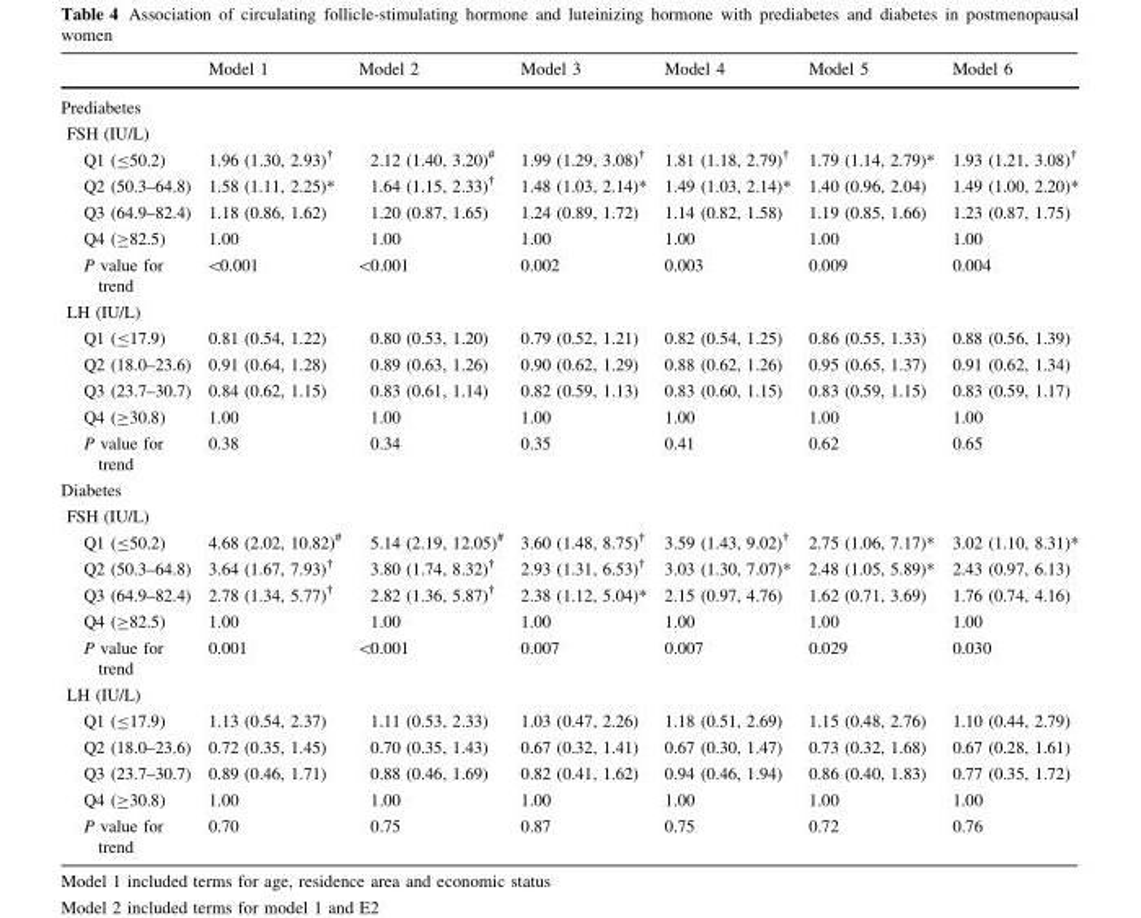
<table><thead><tr><td></td><td>Model 1</td><td>Model 2</td><td>Model 3</td><td>Model 4</td><td>Model 5</td><td>Model 6</td></tr></thead><tbody><tr><td colspan="7">Prediabetes</td></tr><tr><td colspan="7">FSH (IU/L)</td></tr><tr><td>Q1 (≤50.2)</td><td>1.96 (1.30, 2.93)<sup>†</sup></td><td>2.12 (1.40, 3.20)<sup>#</sup></td><td>1.99 (1.29, 3.08)<sup>†</sup></td><td>1.81 (1.18, 2.79)<sup>†</sup></td><td>1.79 (1.14, 2.79)*</td><td>1.93 (1.21, 3.08)<sup>†</sup></td></tr><tr><td>Q2 (50.3–64.8)</td><td>1.58 (1.11, 2.25)*</td><td>1.64 (1.15, 2.33)<sup>†</sup></td><td>1.48 (1.03, 2.14)*</td><td>1.49 (1.03, 2.14)*</td><td>1.40 (0.96, 2.04)</td><td>1.49 (1.00, 2.20)*</td></tr><tr><td>Q3 (64.9–82.4)</td><td>1.18 (0.86, 1.62)</td><td>1.20 (0.87, 1.65)</td><td>1.24 (0.89, 1.72)</td><td>1.14 (0.82, 1.58)</td><td>1.19 (0.85, 1.66)</td><td>1.23 (0.87, 1.75)</td></tr><tr><td>Q4 (≥82.5)</td><td>1.00</td><td>1.00</td><td>1.00</td><td>1.00</td><td>1.00</td><td>1.00</td></tr><tr><td>P value for trend</td><td>&lt;0.001</td><td>&lt;0.001</td><td>0.002</td><td>0.003</td><td>0.009</td><td>0.004</td></tr><tr><td colspan="7">LH (IU/L)</td></tr><tr><td>Q1 (≤17.9)</td><td>0.81 (0.54, 1.22)</td><td>0.80 (0.53, 1.20)</td><td>0.79 (0.52, 1.21)</td><td>0.82 (0.54, 1.25)</td><td>0.86 (0.55, 1.33)</td><td>0.88 (0.56, 1.39)</td></tr><tr><td>Q2 (18.0–23.6)</td><td>0.91 (0.64, 1.28)</td><td>0.89 (0.63, 1.26)</td><td>0.90 (0.62, 1.29)</td><td>0.88 (0.62, 1.26)</td><td>0.95 (0.65, 1.37)</td><td>0.91 (0.62, 1.34)</td></tr><tr><td>Q3 (23.7–30.7)</td><td>0.84 (0.62, 1.15)</td><td>0.83 (0.61, 1.14)</td><td>0.82 (0.59, 1.13)</td><td>0.83 (0.60, 1.15)</td><td>0.83 (0.59, 1.15)</td><td>0.83 (0.59, 1.17)</td></tr><tr><td>Q4 (≥30.8)</td><td>1.00</td><td>1.00</td><td>1.00</td><td>1.00</td><td>1.00</td><td>1.00</td></tr><tr><td>P value for trend</td><td>0.38</td><td>0.34</td><td>0.35</td><td>0.41</td><td>0.62</td><td>0.65</td></tr><tr><td colspan="7">Diabetes</td></tr><tr><td colspan="7">FSH (IU/L)</td></tr><tr><td>Q1 (≤50.2)</td><td>4.68 (2.02, 10.82)<sup>#</sup></td><td>5.14 (2.19, 12.05)<sup>#</sup></td><td>3.60 (1.48, 8.75)<sup>†</sup></td><td>3.59 (1.43, 9.02)<sup>†</sup></td><td>2.75 (1.06, 7.17)*</td><td>3.02 (1.10, 8.31)*</td></tr><tr><td>Q2 (50.3–64.8)</td><td>3.64 (1.67, 7.93)<sup>†</sup></td><td>3.80 (1.74, 8.32)<sup>†</sup></td><td>2.93 (1.31, 6.53)<sup>†</sup></td><td>3.03 (1.30, 7.07)*</td><td>2.48 (1.05, 5.89)*</td><td>2.43 (0.97, 6.13)</td></tr><tr><td>Q3 (64.9–82.4)</td><td>2.78 (1.34, 5.77)<sup>†</sup></td><td>2.82 (1.36, 5.87)<sup>†</sup></td><td>2.38 (1.12, 5.04)*</td><td>2.15 (0.97, 4.76)</td><td>1.62 (0.71, 3.69)</td><td>1.76 (0.74, 4.16)</td></tr><tr><td>Q4 (≥82.5)</td><td>1.00</td><td>1.00</td><td>1.00</td><td>1.00</td><td>1.00</td><td>1.00</td></tr><tr><td>P value for trend</td><td>0.001</td><td>&lt;0.001</td><td>0.007</td><td>0.007</td><td>0.029</td><td>0.030</td></tr><tr><td colspan="7">LH (IU/L)</td></tr><tr><td>Q1 (≤17.9)</td><td>1.13 (0.54, 2.37)</td><td>1.11 (0.53, 2.33)</td><td>1.03 (0.47, 2.26)</td><td>1.18 (0.51, 2.69)</td><td>1.15 (0.48, 2.76)</td><td>1.10 (0.44, 2.79)</td></tr><tr><td>Q2 (18.0–23.6)</td><td>0.72 (0.35, 1.45)</td><td>0.70 (0.35, 1.43)</td><td>0.67 (0.32, 1.41)</td><td>0.67 (0.30, 1.47)</td><td>0.73 (0.32, 1.68)</td><td>0.67 (0.28, 1.61)</td></tr><tr><td>Q3 (23.7–30.7)</td><td>0.89 (0.46, 1.71)</td><td>0.88 (0.46, 1.69)</td><td>0.82 (0.41, 1.62)</td><td>0.94 (0.46, 1.94)</td><td>0.86 (0.40, 1.83)</td><td>0.77 (0.35, 1.72)</td></tr><tr><td>Q4 (≥30.8)</td><td>1.00</td><td>1.00</td><td>1.00</td><td>1.00</td><td>1.00</td><td>1.00</td></tr><tr><td>P value for trend</td><td>0.70</td><td>0.75</td><td>0.87</td><td>0.75</td><td>0.72</td><td>0.76</td></tr></tbody></table>